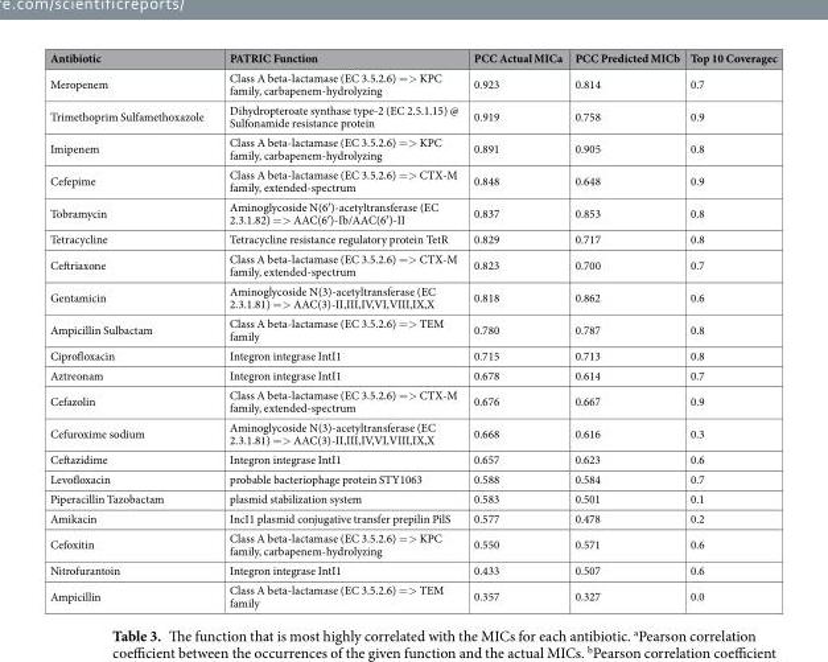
<table><thead><tr><td>Antibiotic</td><td>PATRIC Function</td><td>PCC Actual MICa</td><td>PCC Predicted MICb</td><td>Top 10 Coveragec</td></tr></thead><tbody><tr><td>Meropenem</td><td>Class A beta-lactamase (EC 3.5.2.6) =&gt; KPC family, carbapenem-hydrolyzing</td><td>0.923</td><td>0.814</td><td>0.7</td></tr><tr><td>Trimethoprim Sulfamethoxazole</td><td>Dihydropteroate synthase type-2 (EC 2.5.1.15) @ Sulfonamide resistance protein</td><td>0.919</td><td>0.758</td><td>0.9</td></tr><tr><td>Imipenem</td><td>Class A beta-lactamase (EC 3.5.2.6) =&gt; KPC family, carbapenem-hydrolyzing</td><td>0.891</td><td>0.905</td><td>0.8</td></tr><tr><td>Cefepime</td><td>Class A beta-lactamase (EC 3.5.2.6) =&gt; CTX-M family, extended-spectrum</td><td>0.848</td><td>0.648</td><td>0.9</td></tr><tr><td>Tobramycin</td><td>Aminoglycoside N(6′)-acetyltransferase (EC 2.3.1.82) =&gt; AAC(6′)-Ib/AAC(6′)-II</td><td>0.837</td><td>0.853</td><td>0.8</td></tr><tr><td>Tetracycline</td><td>Tetracycline resistance regulatory protein TetR</td><td>0.829</td><td>0.717</td><td>0.8</td></tr><tr><td>Ceftriaxone</td><td>Class A beta-lactamase (EC 3.5.2.6) =&gt; CTX-M family, extended-spectrum</td><td>0.823</td><td>0.700</td><td>0.7</td></tr><tr><td>Gentamicin</td><td>Aminoglycoside N(3)-acetyltransferase (EC 2.3.1.81) =&gt; AAC(3)-II,III,IV,VI,VIII,IX,X</td><td>0.818</td><td>0.862</td><td>0.6</td></tr><tr><td>Ampicillin Sulbactam</td><td>Class A beta-lactamase (EC 3.5.2.6) =&gt; TEM family</td><td>0.780</td><td>0.787</td><td>0.8</td></tr><tr><td>Ciprofloxacin</td><td>Integron integrase IntI1</td><td>0.715</td><td>0.713</td><td>0.8</td></tr><tr><td>Aztreonam</td><td>Integron integrase IntI1</td><td>0.678</td><td>0.614</td><td>0.7</td></tr><tr><td>Cefazolin</td><td>Class A beta-lactamase (EC 3.5.2.6) =&gt; CTX-M family, extended-spectrum</td><td>0.676</td><td>0.667</td><td>0.9</td></tr><tr><td>Cefuroxime sodium</td><td>Aminoglycoside N(3)-acetyltransferase (EC 2.3.1.81) =&gt; AAC(3)-II,III,IV,VI,VIII,IX,X</td><td>0.668</td><td>0.616</td><td>0.3</td></tr><tr><td>Ceftazidime</td><td>Integron integrase IntI1</td><td>0.657</td><td>0.623</td><td>0.6</td></tr><tr><td>Levofloxacin</td><td>probable bacteriophage protein STY1063</td><td>0.588</td><td>0.584</td><td>0.7</td></tr><tr><td>Piperacillin Tazobactam</td><td>plasmid stabilization system</td><td>0.583</td><td>0.501</td><td>0.1</td></tr><tr><td>Amikacin</td><td>IncI1 plasmid conjugative transfer prepilin PilS</td><td>0.577</td><td>0.478</td><td>0.2</td></tr><tr><td>Cefoxitin</td><td>Class A beta-lactamase (EC 3.5.2.6) =&gt; KPC family, carbapenem-hydrolyzing</td><td>0.550</td><td>0.571</td><td>0.6</td></tr><tr><td>Nitrofurantoin</td><td>Integron integrase IntI1</td><td>0.433</td><td>0.507</td><td>0.6</td></tr><tr><td>Ampicillin</td><td>Class A beta-lactamase (EC 3.5.2.6) =&gt; TEM family</td><td>0.357</td><td>0.327</td><td>0.0</td></tr></tbody></table>